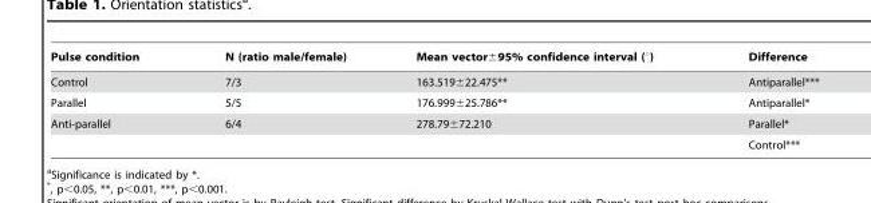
<table><thead><tr><td>Pulse condition</td><td>N (ratio male/female)</td><td>Mean vector±95% confidence interval (°)</td><td>Difference</td></tr></thead><tbody><tr><td>Control</td><td>7/3</td><td>163.519±22.475**</td><td>Antiparallel***</td></tr><tr><td>Parallel</td><td>5/5</td><td>176.999±25.786**</td><td>Antiparallel*</td></tr><tr><td rowspan="2">Anti-parallel</td><td>6/4</td><td>278.79±72.210</td><td>Parallel*</td></tr><tr><td></td><td></td><td>Control***</td></tr></tbody></table>